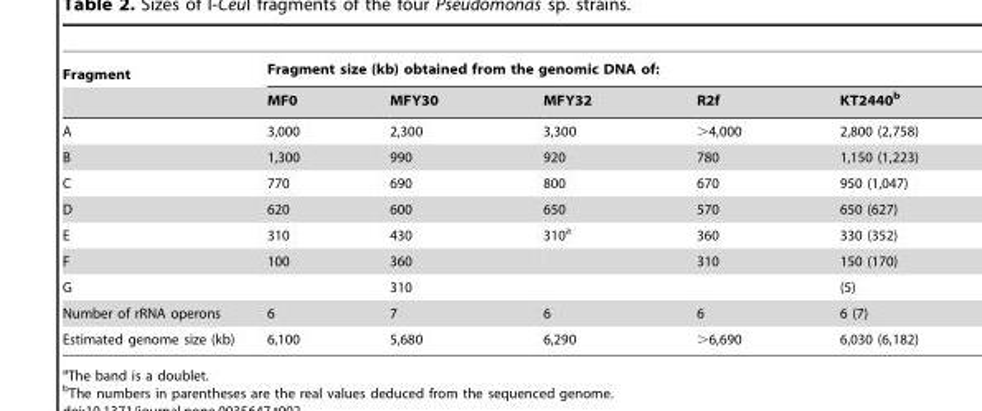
<table><thead><tr><td rowspan="2">Fragment</td><td colspan="5">Fragment size (kb) obtained from the genomic DNA of:</td></tr><tr><td>MF0</td><td>MFY30</td><td>MFY32</td><td>R2f</td><td>KT2440<sup>b</sup></td></tr></thead><tbody><tr><td>A</td><td>3,000</td><td>2,300</td><td>3,300</td><td>&gt;4,000</td><td>2,800 (2,758)</td></tr><tr><td>B</td><td>1,300</td><td>990</td><td>920</td><td>780</td><td>1,150 (1,223)</td></tr><tr><td>C</td><td>770</td><td>690</td><td>800</td><td>670</td><td>950 (1,047)</td></tr><tr><td>D</td><td>620</td><td>600</td><td>650</td><td>570</td><td>650 (627)</td></tr><tr><td>E</td><td>310</td><td>430</td><td>310<sup>a</sup></td><td>360</td><td>330 (352)</td></tr><tr><td>F</td><td>100</td><td>360</td><td></td><td>310</td><td>150 (170)</td></tr><tr><td>G</td><td></td><td>310</td><td></td><td></td><td>(5)</td></tr><tr><td>Number of rRNA operons</td><td>6</td><td>7</td><td>6</td><td>6</td><td>6 (7)</td></tr><tr><td>Estimated genome size (kb)</td><td>6,100</td><td>5,680</td><td>6,290</td><td>&gt;6,690</td><td>6,030 (6,182)</td></tr></tbody></table>